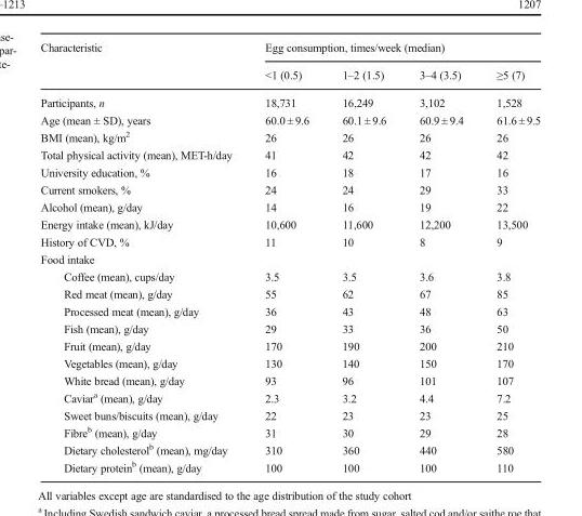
<table><thead><tr><td rowspan="2">Characteristic</td><td colspan="4">Egg consumption, times/week (median)</td></tr><tr><td>&lt;1 (0.5)</td><td>1–2 (1.5)</td><td>3–4 (3.5)</td><td>≥5 (7)</td></tr></thead><tbody><tr><td>Participants, n</td><td>18,731</td><td>16,249</td><td>3,102</td><td>1,528</td></tr><tr><td>Age (mean ± SD), years</td><td>60.0 ± 9.6</td><td>60.1 ± 9.6</td><td>60.9 ± 9.4</td><td>61.6 ± 9.5</td></tr><tr><td>BMI (mean), kg/m<sup>2</sup></td><td>26</td><td>26</td><td>26</td><td>26</td></tr><tr><td>Total physical activity (mean), MET-h/day</td><td>41</td><td>42</td><td>42</td><td>42</td></tr><tr><td>University education, %</td><td>16</td><td>18</td><td>17</td><td>16</td></tr><tr><td>Current smokers, %</td><td>24</td><td>24</td><td>29</td><td>33</td></tr><tr><td>Alcohol (mean), g/day</td><td>14</td><td>16</td><td>19</td><td>22</td></tr><tr><td>Energy intake (mean), kJ/day</td><td>10,600</td><td>11,600</td><td>12,200</td><td>13,500</td></tr><tr><td>History of CVD, %</td><td>11</td><td>10</td><td>8</td><td>9</td></tr><tr><td colspan="5">Food intake</td></tr><tr><td>Coffee (mean), cups/day</td><td>3.5</td><td>3.5</td><td>3.6</td><td>3.8</td></tr><tr><td>Red meat (mean), g/day</td><td>55</td><td>62</td><td>67</td><td>85</td></tr><tr><td>Processed meat (mean), g/day</td><td>36</td><td>43</td><td>48</td><td>63</td></tr><tr><td>Fish (mean), g/day</td><td>29</td><td>33</td><td>36</td><td>50</td></tr><tr><td>Fruit (mean), g/day</td><td>170</td><td>190</td><td>200</td><td>210</td></tr><tr><td>Vegetables (mean), g/day</td><td>130</td><td>140</td><td>150</td><td>170</td></tr><tr><td>White bread (mean), g/day</td><td>93</td><td>96</td><td>101</td><td>107</td></tr><tr><td>Caviar<sup>a</sup> (mean), g/day</td><td>2.3</td><td>3.2</td><td>4.4</td><td>7.2</td></tr><tr><td>Sweet buns/biscuits (mean), g/day</td><td>22</td><td>23</td><td>23</td><td>25</td></tr><tr><td>Fibre<sup>b</sup> (mean), g/day</td><td>31</td><td>30</td><td>29</td><td>28</td></tr><tr><td>Dietary cholesterol<sup>b</sup> (mean), mg/day</td><td>310</td><td>360</td><td>440</td><td>580</td></tr><tr><td>Dietary protein<sup>b</sup> (mean), g/day</td><td>100</td><td>100</td><td>100</td><td>110</td></tr></tbody></table>